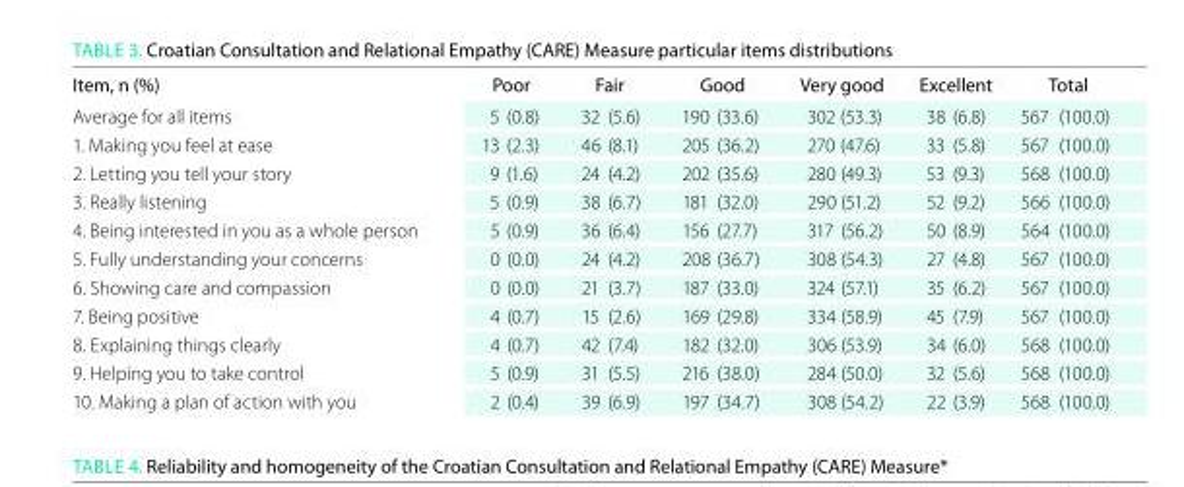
<table><thead><tr><td rowspan="2">Item, n (%) Average for all items</td><td colspan="2">Poor</td><td colspan="2">Fair</td><td colspan="2">Good</td><td colspan="2">Very good</td><td colspan="2">excellent</td><td colspan="2">Total</td></tr><tr><td>5</td><td>(0.8)</td><td>32</td><td>(5.6)</td><td>190</td><td>(33.6)</td><td>302</td><td>(53.3)</td><td>38</td><td>(6.8)</td><td>567</td><td>(100.0)</td></tr></thead><tbody><tr><td>1. Making you feel at ease</td><td>13</td><td>(2.3)</td><td>46</td><td>(8.1)</td><td>205</td><td>(36.2)</td><td>270</td><td>(47.6)</td><td>33</td><td>(5.8)</td><td>567</td><td>(100.0)</td></tr><tr><td>2. Letting you tell your story</td><td>9</td><td>(1.6)</td><td>24</td><td>(4.2)</td><td>202</td><td>(35.6)</td><td>280</td><td>(49.3)</td><td>53</td><td>(9.3)</td><td>568</td><td>(100.0)</td></tr><tr><td>3. Really listening</td><td>5</td><td>(0.9)</td><td>38</td><td>(6.7)</td><td>181</td><td>(32.0)</td><td>290</td><td>(51.2)</td><td>52</td><td>(9.2)</td><td>566</td><td>(100.0)</td></tr><tr><td>4. Being interested in you as a whole person</td><td>5</td><td>(0.9)</td><td>36</td><td>(6.4)</td><td>156</td><td>(27.7)</td><td>317</td><td>(56.2)</td><td>50</td><td>(8.9)</td><td>564</td><td>(100.0)</td></tr><tr><td>5. Fully understanding your concerns</td><td>0</td><td>(0.0)</td><td>24</td><td>(4.2)</td><td>208</td><td>(36.7)</td><td>308</td><td>(54.3)</td><td>27</td><td>(4.8)</td><td>567</td><td>(100.0)</td></tr><tr><td>6. Showing care and compassion</td><td>0</td><td>(0.0)</td><td>21</td><td>(3.7)</td><td>187</td><td>(33.0)</td><td>324</td><td>(57.1)</td><td>35</td><td>(6.2)</td><td>567</td><td>(100.0)</td></tr><tr><td>7. Being positive</td><td>4</td><td>(0.7)</td><td>15</td><td>(2.6)</td><td>169</td><td>(29.8)</td><td>334</td><td>(58.9)</td><td>45</td><td>(7.9)</td><td>567</td><td>(100.0)</td></tr><tr><td>8. Explaining things clearly</td><td>4</td><td>(0.7)</td><td>42</td><td>(7.4)</td><td>182</td><td>(32.0)</td><td>306</td><td>(53.9)</td><td>34</td><td>(6.0)</td><td>568</td><td>(100.0)</td></tr><tr><td>9. Helping you to take control</td><td>5</td><td>(0.9)</td><td>31</td><td>(5.5)</td><td>216</td><td>(38.0)</td><td>284</td><td>(50.0)</td><td>32</td><td>(5.6)</td><td>568</td><td>(100.0)</td></tr><tr><td>10. Making a plan of action with you</td><td>2</td><td>(0.4)</td><td>39</td><td>(6.9)</td><td>197</td><td>(34.7)</td><td>308</td><td>(54.2)</td><td>22</td><td>(3.9)</td><td>568</td><td>(100.0)</td></tr></tbody></table>